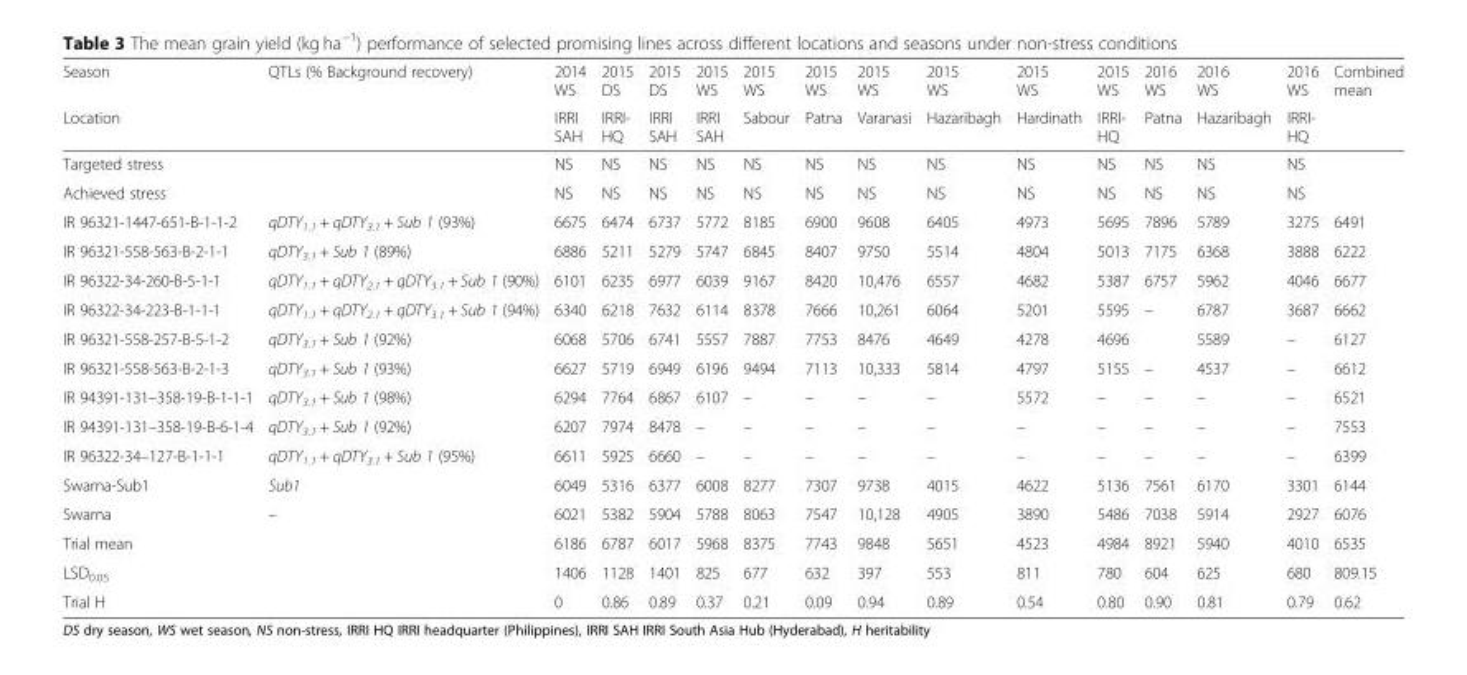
<table><thead><tr><td rowspan="2">Season Location</td><td rowspan="2">QTLs (% Background recovery)</td><td rowspan="2">2014 WS IRRI SAH</td><td rowspan="2">2015 DS IRRI- HQ</td><td rowspan="2">2015 DS IRRI SAH</td><td rowspan="2">2015 WS IRRI SAH</td><td rowspan="2">2015 WS Sabour</td><td rowspan="2">2015 WS Patna</td><td rowspan="2">2015 WS Varanasi</td><td rowspan="2">2015 WS Hazaribagh</td><td rowspan="2">2015 WS Hardinath</td><td rowspan="2">2015 WS IRRI- HQ</td><td rowspan="2">2016 WS Patna</td><td rowspan="2">2016 WS Hazaribagh</td><td rowspan="2">2016 WS IRRI- HQ</td><td rowspan="2">Combined mean</td></tr><tr></tr></thead><tbody><tr><td>Targeted stress</td><td></td><td>NS</td><td>NS</td><td>NS</td><td>NS</td><td>NS</td><td>NS</td><td>NS</td><td>NS</td><td>NS</td><td>NS</td><td>NS</td><td>NS</td><td>NS</td><td></td></tr><tr><td>Achieved stress</td><td></td><td>NS</td><td>NS</td><td>NS</td><td>NS</td><td>NS</td><td>NS</td><td>NS</td><td>NS</td><td>NS</td><td>NS</td><td>NS</td><td>NS</td><td>NS</td><td></td></tr><tr><td>IR 96321-1447-651-B-1-1-2</td><td>qDTY<sub>1.1</sub> + qDTY<sub>3.1</sub> + Sub 1 (93%)</td><td>6675</td><td>6474</td><td>6737</td><td>5772</td><td>8185</td><td>6900</td><td>9608</td><td>6405</td><td>4973</td><td>5695</td><td>7896</td><td>5789</td><td>3275</td><td>6491</td></tr><tr><td>IR 96321-558-563-B-2-1-1</td><td>qDTY<sub>3.1</sub> + Sub 1 (89%)</td><td>6886</td><td>5211</td><td>5279</td><td>5747</td><td>6845</td><td>8407</td><td>9750</td><td>5514</td><td>4804</td><td>5013</td><td>7175</td><td>6368</td><td>3888</td><td>6222</td></tr><tr><td>IR 96322-34-260-B-5-1-1</td><td>qDTY<sub>1.1</sub> + qDTY<sub>2.1</sub> + qDTY<sub>3.1</sub> + Sub 1 (90%)</td><td>6101</td><td>6235</td><td>6977</td><td>6039</td><td>9167</td><td>8420</td><td>10,476</td><td>6557</td><td>4682</td><td>5387</td><td>6757</td><td>5962</td><td>4046</td><td>6677</td></tr><tr><td>IR 96322-34-223-B-1-1-1</td><td>qDTY<sub>1.1</sub> + qDTY<sub>2.1</sub> + qDTY<sub>3.1</sub> + Sub 1 (94%)</td><td>6340</td><td>6218</td><td>7632</td><td>6114</td><td>8378</td><td>7666</td><td>10,261</td><td>6064</td><td>5201</td><td>5595</td><td>–</td><td>6787</td><td>3687</td><td>6662</td></tr><tr><td>IR 96321-558-257-B-5-1-2</td><td>qDTY<sub>3.1</sub> + Sub 1 (92%)</td><td>6068</td><td>5706</td><td>6741</td><td>5557</td><td>7887</td><td>7753</td><td>8476</td><td>4649</td><td>4278</td><td>4696</td><td></td><td>5589</td><td>–</td><td>6127</td></tr><tr><td>IR 96321-558-563-B-2-1-3</td><td>qDTY<sub>3.1</sub> + Sub 1 (93%)</td><td>6627</td><td>5719</td><td>6949</td><td>6196</td><td>9494</td><td>7113</td><td>10,333</td><td>5814</td><td>4797</td><td>5155</td><td>–</td><td>4537</td><td>–</td><td>6612</td></tr><tr><td>IR 94391-131–358-19-B-1-1-1</td><td>qDTY<sub>3.1</sub> + Sub 1 (98%)</td><td>6294</td><td>7764</td><td>6867</td><td>6107</td><td>–</td><td>–</td><td>–</td><td>–</td><td>5572</td><td>–</td><td>–</td><td>–</td><td>–</td><td>6521</td></tr><tr><td>IR 94391-131–358-19-B-6-1-4</td><td>qDTY<sub>3.1</sub> + Sub 1 (92%)</td><td>6207</td><td>7974</td><td>8478</td><td>–</td><td>–</td><td>–</td><td>–</td><td>–</td><td>–</td><td>–</td><td>–</td><td>–</td><td>–</td><td>7553</td></tr><tr><td>IR 96322-34–127-B-1-1-1</td><td>qDTY<sub>1.1</sub> + qDTY<sub>3.1</sub> + Sub 1 (95%)</td><td>6611</td><td>5925</td><td>6660</td><td>–</td><td>–</td><td>–</td><td>–</td><td>–</td><td>–</td><td>–</td><td>–</td><td>–</td><td>–</td><td>6399</td></tr><tr><td>Swarna-Sub1</td><td>Sub1</td><td>6049</td><td>5316</td><td>6377</td><td>6008</td><td>8277</td><td>7307</td><td>9738</td><td>4015</td><td>4622</td><td>5136</td><td>7561</td><td>6170</td><td>3301</td><td>6144</td></tr><tr><td>Swarna</td><td>–</td><td>6021</td><td>5382</td><td>5904</td><td>5788</td><td>8063</td><td>7547</td><td>10,128</td><td>4905</td><td>3890</td><td>5486</td><td>7038</td><td>5914</td><td>2927</td><td>6076</td></tr><tr><td>Trial mean</td><td></td><td>6186</td><td>6787</td><td>6017</td><td>5968</td><td>8375</td><td>7743</td><td>9848</td><td>5651</td><td>4523</td><td>4984</td><td>8921</td><td>5940</td><td>4010</td><td>6535</td></tr><tr><td>LSD<sub>0.05</sub></td><td></td><td>1406</td><td>1128</td><td>1401</td><td>825</td><td>677</td><td>632</td><td>397</td><td>553</td><td>811</td><td>780</td><td>604</td><td>625</td><td>680</td><td>809.15</td></tr><tr><td>Trial H</td><td></td><td>0</td><td>0.86</td><td>0.89</td><td>0.37</td><td>0.21</td><td>0.09</td><td>0.94</td><td>0.89</td><td>0.54</td><td>0.80</td><td>0.90</td><td>0.81</td><td>0.79</td><td>0.62</td></tr></tbody></table>